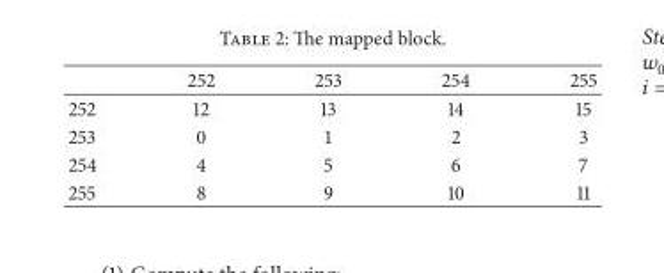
<table><thead><tr><td></td><td>252</td><td>253</td><td>254</td><td>255</td></tr></thead><tbody><tr><td>252</td><td>12</td><td>13</td><td>14</td><td>15</td></tr><tr><td>253</td><td>0</td><td>1</td><td>2</td><td>3</td></tr><tr><td>254</td><td>4</td><td>5</td><td>6</td><td>7</td></tr><tr><td>255</td><td>8</td><td>9</td><td>10</td><td>11</td></tr></tbody></table>